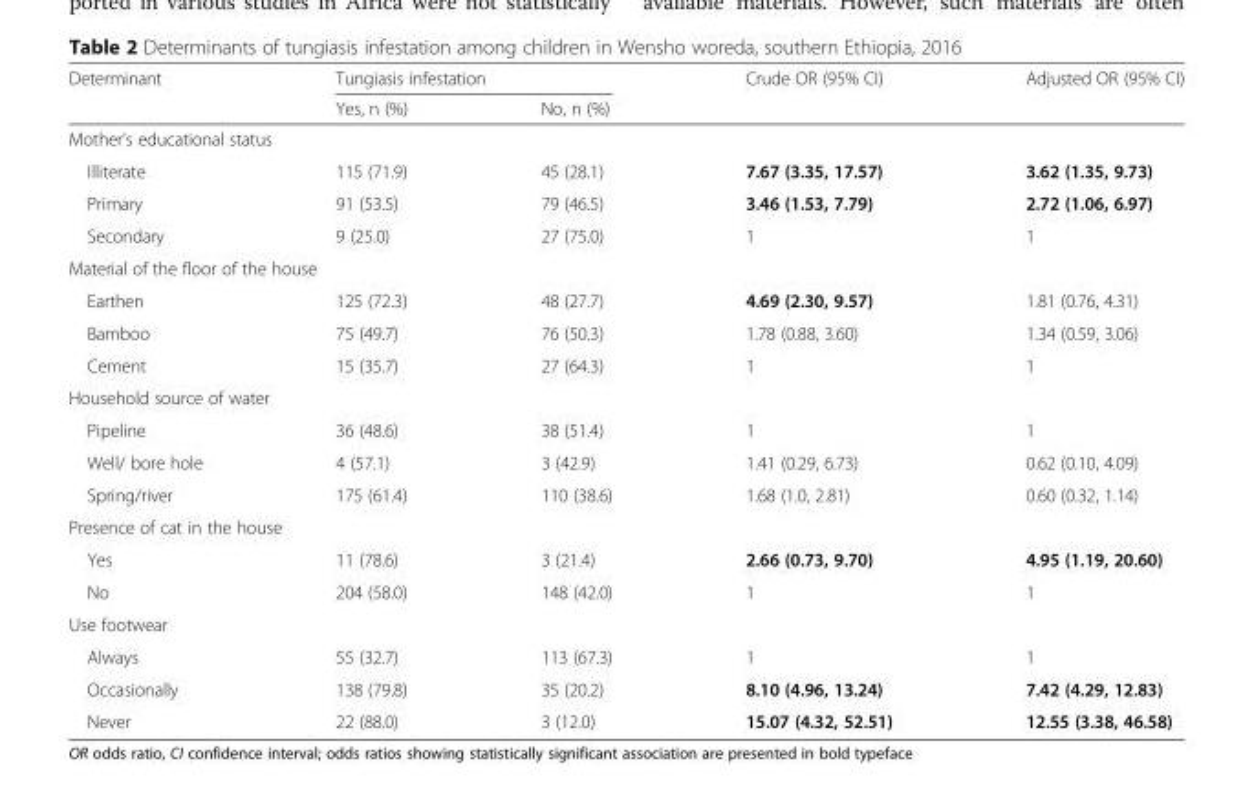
<table><thead><tr><td rowspan="2">Determinant</td><td colspan="2">Tungiasis infestation</td><td rowspan="2">Crude OR (95% CI)</td><td rowspan="2">Adjusted OR (95% CI)</td></tr><tr><td>Yes, n (%)</td><td>No, n (%)</td></tr></thead><tbody><tr><td colspan="5">Mother’s educational status</td></tr><tr><td>Illiterate</td><td>115 (71.9)</td><td>45 (28.1)</td><td>7.67 (3.35, 17.57)</td><td>3.62 (1.35, 9.73)</td></tr><tr><td>Primary</td><td>91 (53.5)</td><td>79 (46.5)</td><td>3.46 (1.53, 7.79)</td><td>2.72 (1.06, 6.97)</td></tr><tr><td>Secondary</td><td>9 (25.0)</td><td>27 (75.0)</td><td>1</td><td>1</td></tr><tr><td colspan="5">Material of the floor of the house</td></tr><tr><td>Earthen</td><td>125 (72.3)</td><td>48 (27.7)</td><td>4.69 (2.30, 9.57)</td><td>1.81 (0.76, 4.31)</td></tr><tr><td>Bamboo</td><td>75 (49.7)</td><td>76 (50.3)</td><td>1.78 (0.88, 3.60)</td><td>1.34 (0.59, 3.06)</td></tr><tr><td>Cement</td><td>15 (35.7)</td><td>27 (64.3)</td><td>1</td><td>1</td></tr><tr><td colspan="5">Household source of water</td></tr><tr><td>Pipeline</td><td>36 (48.6)</td><td>38 (51.4)</td><td>1</td><td>1</td></tr><tr><td>Well/ bore hole</td><td>4 (57.1)</td><td>3 (42.9)</td><td>1.41 (0.29, 6.73)</td><td>0.62 (0.10, 4.09)</td></tr><tr><td>Spring/river</td><td>175 (61.4)</td><td>110 (38.6)</td><td>1.68 (1.0, 2.81)</td><td>0.60 (0.32, 1.14)</td></tr><tr><td colspan="5">Presence of cat in the house</td></tr><tr><td>Yes</td><td>11 (78.6)</td><td>3 (21.4)</td><td>2.66 (0.73, 9.70)</td><td>4.95 (1.19, 20.60)</td></tr><tr><td>No</td><td>204 (58.0)</td><td>148 (42.0)</td><td>1</td><td>1</td></tr><tr><td colspan="5">Use footwear</td></tr><tr><td>Always</td><td>55 (32.7)</td><td>113 (67.3)</td><td>1</td><td>1</td></tr><tr><td>Occasionally</td><td>138 (79.8)</td><td>35 (20.2)</td><td>8.10 (4.96, 13.24)</td><td>7.42 (4.29, 12.83)</td></tr><tr><td>Never</td><td>22 (88.0)</td><td>3 (12.0)</td><td>15.07 (4.32, 52.51)</td><td>12.55 (3.38, 46.58)</td></tr></tbody></table>